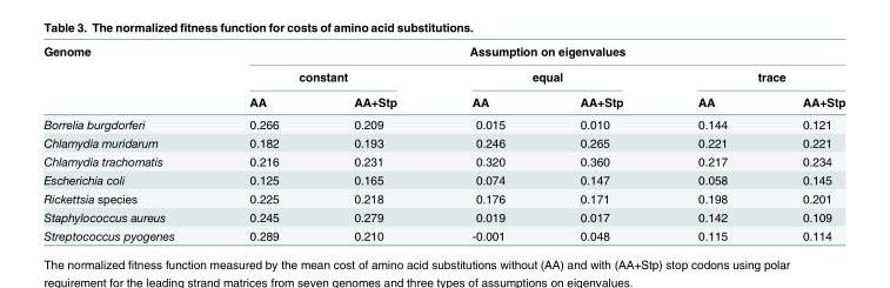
<table><thead><tr><td rowspan="3">Genome</td><td colspan="6">Assumption on eigenvalues</td></tr><tr><td colspan="2">constant</td><td colspan="2">equal</td><td colspan="2">trace</td></tr><tr><td>AA</td><td>AA+Stp</td><td>AA</td><td>AA+Stp</td><td>AA</td><td>AA+Stp</td></tr></thead><tbody><tr><td>Borrelia burgdorferi</td><td>0.266</td><td>0.209</td><td>0.015</td><td>0.010</td><td>0.144</td><td>0.121</td></tr><tr><td>Chlamydia muridarum</td><td>0.182</td><td>0.193</td><td>0.246</td><td>0.265</td><td>0.221</td><td>0.221</td></tr><tr><td>Chlamydia trachomatis</td><td>0.216</td><td>0.231</td><td>0.320</td><td>0.360</td><td>0.217</td><td>0.234</td></tr><tr><td>Escherichia coli</td><td>0.125</td><td>0.165</td><td>0.074</td><td>0.147</td><td>0.058</td><td>0.145</td></tr><tr><td>Rickettsia species</td><td>0.225</td><td>0.218</td><td>0.176</td><td>0.171</td><td>0.198</td><td>0.201</td></tr><tr><td>Staphylococcus aureus</td><td>0.245</td><td>0.279</td><td>0.019</td><td>0.017</td><td>0.142</td><td>0.109</td></tr><tr><td>Streptococcus pyogenes</td><td>0.289</td><td>0.210</td><td>-0.001</td><td>0.048</td><td>0.115</td><td>0.114</td></tr></tbody></table>